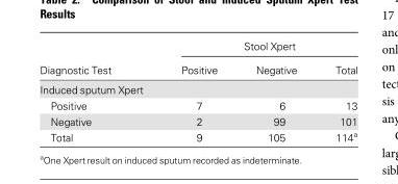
<table><thead><tr><td rowspan="2">Diagnostic Test</td><td colspan="3">Stool Xpert</td></tr><tr><td>Positive</td><td>Negative</td><td>Total</td></tr></thead><tbody><tr><td colspan="4">Induced sputum Xpert</td></tr><tr><td>Positive</td><td>7</td><td>6</td><td>13</td></tr><tr><td>Negative</td><td>2</td><td>99</td><td>101</td></tr><tr><td>Total</td><td>9</td><td>105</td><td>114<sup>a</sup></td></tr></tbody></table>